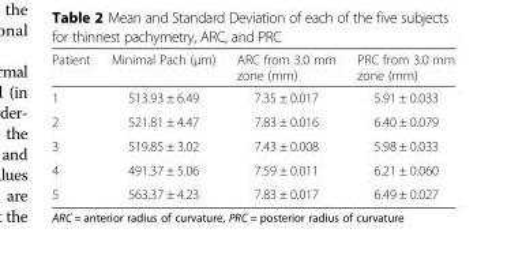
<table><thead><tr><td>Patient</td><td>Minimal Pach (μm)</td><td>ARC from 3.0 mm zone (mm)</td><td>PRC from 3.0 mm zone (mm)</td></tr></thead><tbody><tr><td>1</td><td>513.93 ± 6.49</td><td>7.35 ± 0.017</td><td>5.91 ± 0.033</td></tr><tr><td>2</td><td>521.81 ± 4.47</td><td>7.83 ± 0.016</td><td>6.40 ± 0.079</td></tr><tr><td>3</td><td>519.85 ± 3.02</td><td>7.43 ± 0.008</td><td>5.98 ± 0.033</td></tr><tr><td>4</td><td>491.37 ± 5.06</td><td>7.59 ± 0.011</td><td>6.21 ± 0.060</td></tr><tr><td>5</td><td>563.37 ± 4.23</td><td>7.83 ± 0.017</td><td>6.49 ± 0.027</td></tr></tbody></table>